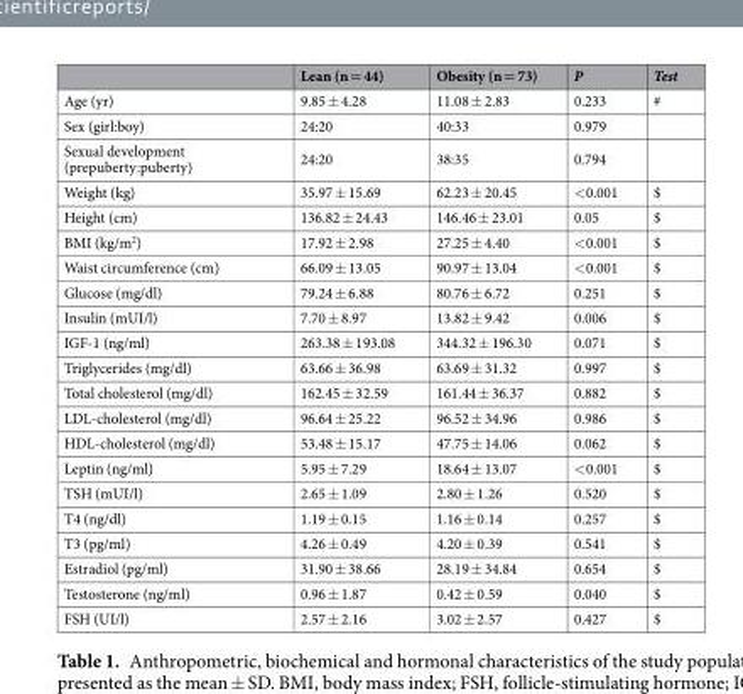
<table><thead><tr><td></td><td>Lean (n = 44)</td><td>Obesity (n = 73)</td><td>P</td><td>Test</td></tr></thead><tbody><tr><td>Age (yr)</td><td>9.85 ± 4.28</td><td>11.08 ± 2.83</td><td>0.233</td><td>#</td></tr><tr><td>Sex (girl:boy)</td><td>24:20</td><td>40:33</td><td>0.979</td><td></td></tr><tr><td>Sexual development (prepuberty:puberty)</td><td>24:20</td><td>38:35</td><td>0.794</td><td></td></tr><tr><td>Weight (kg)</td><td>35.97 ± 15.69</td><td>62.23 ± 20.45</td><td>&lt;0.001</td><td>$</td></tr><tr><td>Height (cm)</td><td>136.82 ± 24.43</td><td>146.46 ± 23.01</td><td>0.05</td><td>$</td></tr><tr><td>BMI (kg/m<sup>2</sup>)</td><td>17.92 ± 2.98</td><td>27.25 ± 4.40</td><td>&lt;0.001</td><td>$</td></tr><tr><td>Waist circumference (cm)</td><td>66.09 ± 13.05</td><td>90.97 ± 13.04</td><td>&lt;0.001</td><td>$</td></tr><tr><td>Glucose (mg/dl)</td><td>79.24 ± 6.88</td><td>80.76 ± 6.72</td><td>0.251</td><td>$</td></tr><tr><td>Insulin (mUI/l)</td><td>7.70 ± 8.97</td><td>13.82 ± 9.42</td><td>0.006</td><td>$</td></tr><tr><td>IGF-1 (ng/ml)</td><td>263.38 ± 193.08</td><td>344.32 ± 196.30</td><td>0.071</td><td>$</td></tr><tr><td>Triglycerides (mg/dl)</td><td>63.66 ± 36.98</td><td>63.69 ± 31.32</td><td>0.997</td><td>$</td></tr><tr><td>Total cholesterol (mg/dl)</td><td>162.45 ± 32.59</td><td>161.44 ± 36.37</td><td>0.882</td><td>$</td></tr><tr><td>LDL-cholesterol (mg/dl)</td><td>96.64 ± 25.22</td><td>96.52 ± 34.96</td><td>0.986</td><td>$</td></tr><tr><td>HDL-cholesterol (mg/dl)</td><td>53.48 ± 15.17</td><td>47.75 ± 14.06</td><td>0.062</td><td>$</td></tr><tr><td>Leptin (ng/ml)</td><td>5.95 ± 7.29</td><td>18.64 ± 13.07</td><td>&lt;0.001</td><td>$</td></tr><tr><td>TSH (mUI/l)</td><td>2.65 ± 1.09</td><td>2.80 ± 1.26</td><td>0.520</td><td>$</td></tr><tr><td>T4 (ng/dl)</td><td>1.19 ± 0.15</td><td>1.16 ± 0.14</td><td>0.257</td><td>$</td></tr><tr><td>T3 (pg/ml)</td><td>4.26 ± 0.49</td><td>4.20 ± 0.39</td><td>0.541</td><td>$</td></tr><tr><td>Estradiol (pg/ml)</td><td>31.90 ± 38.66</td><td>28.19 ± 34.84</td><td>0.654</td><td>$</td></tr><tr><td>Testosterone (ng/ml)</td><td>0.96 ± 1.87</td><td>0.42 ± 0.59</td><td>0.040</td><td>$</td></tr><tr><td>FSH (UI/l)</td><td>2.57 ± 2.16</td><td>3.02 ± 2.57</td><td>0.427</td><td>$</td></tr></tbody></table>